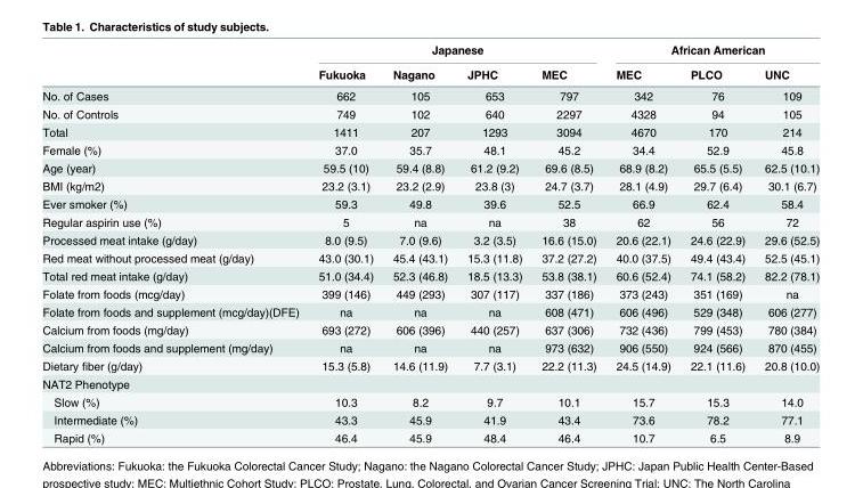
<table><thead><tr><td rowspan="2"></td><td colspan="4">Japanese</td><td colspan="3">African American</td></tr><tr><td>Fukuoka</td><td>Nagano</td><td>JPHC</td><td>MEC</td><td>MEC</td><td>PLCO</td><td>UNC</td></tr></thead><tbody><tr><td>No. of Cases</td><td>662</td><td>105</td><td>653</td><td>797</td><td>342</td><td>76</td><td>109</td></tr><tr><td>No. of Controls</td><td>749</td><td>102</td><td>640</td><td>2297</td><td>4328</td><td>94</td><td>105</td></tr><tr><td>Total</td><td>1411</td><td>207</td><td>1293</td><td>3094</td><td>4670</td><td>170</td><td>214</td></tr><tr><td>Female (%)</td><td>37.0</td><td>35.7</td><td>48.1</td><td>45.2</td><td>34.4</td><td>52.9</td><td>45.8</td></tr><tr><td>Age (year)</td><td>59.5 (10)</td><td>59.4 (8.8)</td><td>61.2 (9.2)</td><td>69.6 (8.5)</td><td>68.9 (8.2)</td><td>65.5 (5.5)</td><td>62.5 (10.1)</td></tr><tr><td>BMI (kg/m2)</td><td>23.2 (3.1)</td><td>23.2 (2.9)</td><td>23.8 (3)</td><td>24.7 (3.7)</td><td>28.1 (4.9)</td><td>29.7 (6.4)</td><td>30.1 (6.7)</td></tr><tr><td>Ever smoker (%)</td><td>59.3</td><td>49.8</td><td>39.6</td><td>52.5</td><td>66.9</td><td>62.4</td><td>58.4</td></tr><tr><td>Regular aspirin use (%)</td><td>5</td><td>na</td><td>na</td><td>38</td><td>62</td><td>56</td><td>72</td></tr><tr><td>Processed meat intake (g/day)</td><td>8.0 (9.5)</td><td>7.0 (9.6)</td><td>3.2 (3.5)</td><td>16.6 (15.0)</td><td>20.6 (22.1)</td><td>24.6 (22.9)</td><td>29.6 (52.5)</td></tr><tr><td>Red meat without processed meat (g/day)</td><td>43.0 (30.1)</td><td>45.4 (43.1)</td><td>15.3 (11.8)</td><td>37.2 (27.2)</td><td>40.0 (37.5)</td><td>49.4 (43.4)</td><td>52.5 (45.1)</td></tr><tr><td>Total red meat intake (g/day)</td><td>51.0 (34.4)</td><td>52.3 (46.8)</td><td>18.5 (13.3)</td><td>53.8 (38.1)</td><td>60.6 (52.4)</td><td>74.1 (58.2)</td><td>82.2 (78.1)</td></tr><tr><td>Folate from foods (mcg/day)</td><td>399 (146)</td><td>449 (293)</td><td>307 (117)</td><td>337 (186)</td><td>373 (243)</td><td>351 (169)</td><td>na</td></tr><tr><td>Folate from foods and supplement (mcg/day)(DFE)</td><td>na</td><td>na</td><td>na</td><td>608 (471)</td><td>606 (496)</td><td>529 (348)</td><td>606 (277)</td></tr><tr><td>Calcium from foods (mg/day)</td><td>693 (272)</td><td>606 (396)</td><td>440 (257)</td><td>637 (306)</td><td>732 (436)</td><td>799 (453)</td><td>780 (384)</td></tr><tr><td>Calcium from foods and supplement (mg/day)</td><td>na</td><td>na</td><td>na</td><td>973 (632)</td><td>906 (550)</td><td>924 (566)</td><td>870 (455)</td></tr><tr><td>Dietary fiber (g/day)</td><td>15.3 (5.8)</td><td>14.6 (11.9)</td><td>7.7 (3.1)</td><td>22.2 (11.3)</td><td>24.5 (14.9)</td><td>22.1 (11.6)</td><td>20.8 (10.0)</td></tr><tr><td colspan="8">NAT2 Phenotype</td></tr><tr><td>Slow (%)</td><td>10.3</td><td>8.2</td><td>9.7</td><td>10.1</td><td>15.7</td><td>15.3</td><td>14.0</td></tr><tr><td>Intermediate (%)</td><td>43.3</td><td>45.9</td><td>41.9</td><td>43.4</td><td>73.6</td><td>78.2</td><td>77.1</td></tr><tr><td>Rapid (%)</td><td>46.4</td><td>45.9</td><td>48.4</td><td>46.4</td><td>10.7</td><td>6.5</td><td>8.9</td></tr></tbody></table>